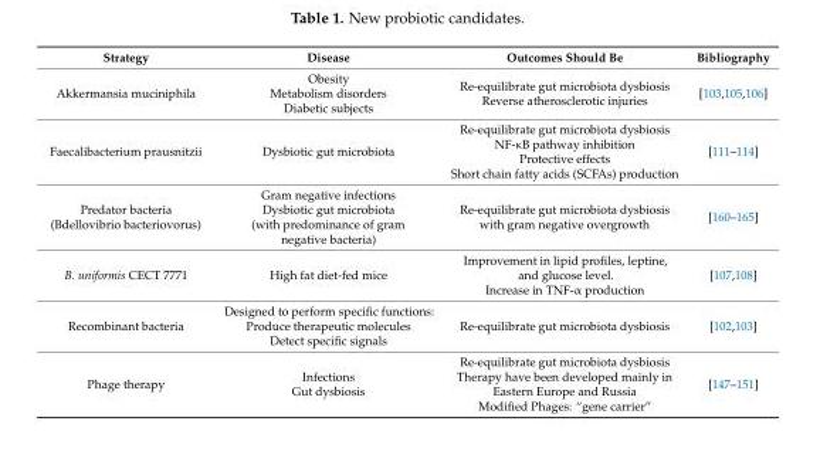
<table><thead><tr><td>Strategy</td><td>Disease</td><td>Outcomes Should Be</td><td>Bibliography</td></tr></thead><tbody><tr><td>Akkermansia muciniphila</td><td>Obesity Metabolism disorders Diabetic subjects</td><td>Re-equilibrate gut microbiota dysbiosis Reverse atherosclerotic injuries</td><td>[103,105,106]</td></tr><tr><td>Faecalibacterium prausnitzii</td><td>Dysbiotic gut microbiota</td><td>Re-equilibrate gut microbiota dysbiosis NF-κB pathway inhibition Protective effects Short chain fatty acids (SCFAs) production</td><td>[111–114]</td></tr><tr><td>Predator bacteria (Bdellovibrio bacteriovorus)</td><td>Gram negative infections Dysbiotic gut microbiota (with predominance of gram negative bacteria)</td><td>Re-equilibrate gut microbiota dysbiosis with gram negative overgrowth</td><td>[160–165]</td></tr><tr><td>B. uniformis CECT 7771</td><td>High fat diet-fed mice</td><td>Improvement in lipid profiles, leptine, and glucose level. Increase in TNF-α production</td><td>[107,108]</td></tr><tr><td>Recombinant bacteria</td><td>Designed to perform specific functions: Produce therapeutic molecules Detect specific signals</td><td>Re-equilibrate gut microbiota dysbiosis</td><td>[102,103]</td></tr><tr><td>Phage therapy</td><td>Infections Gut dysbiosis</td><td>Re-equilibrate gut microbiota dysbiosis Therapy have been developed mainly in Eastern Europe and Russia Modified Phages: “gene carrier”</td><td>[147–151]</td></tr></tbody></table>